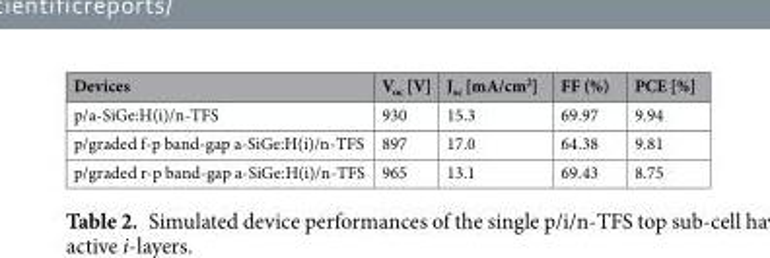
<table><thead><tr><td>Devices</td><td>V<sub>oc</sub> [V]</td><td>J<sub>sc</sub> [mA/cm<sup>2</sup>]</td><td>FF (%)</td><td>PCE [%]</td></tr></thead><tbody><tr><td>p/a-SiGe:H(i)/n-TFS</td><td>930</td><td>15.3</td><td>69.97</td><td>9.94</td></tr><tr><td>p/graded f-p band-gap a-SiGe:H(i)/n-TFS</td><td>897</td><td>17.0</td><td>64.38</td><td>9.81</td></tr><tr><td>p/graded r-p band-gap a-SiGe:H(i)/n-TFS</td><td>965</td><td>13.1</td><td>69.43</td><td>8.75</td></tr></tbody></table>